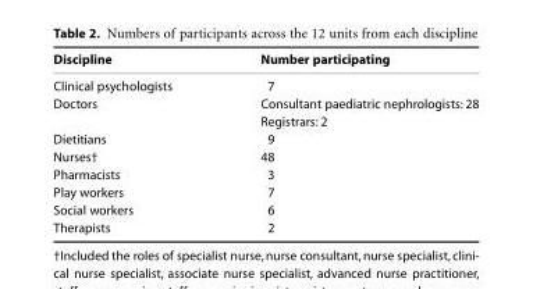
<table><thead><tr><td>Discipline</td><td>Number participating</td></tr></thead><tbody><tr><td>Clinical psychologists</td><td>7</td></tr><tr><td>Doctors</td><td>Consultant paediatric nephrologists: 28 Registrars: 2</td></tr><tr><td>Dietitians</td><td>9</td></tr><tr><td>Nurses†</td><td>48</td></tr><tr><td>Pharmacists</td><td>3</td></tr><tr><td>Play workers</td><td>7</td></tr><tr><td>Social workers</td><td>6</td></tr><tr><td>Therapists</td><td>2</td></tr></tbody></table>